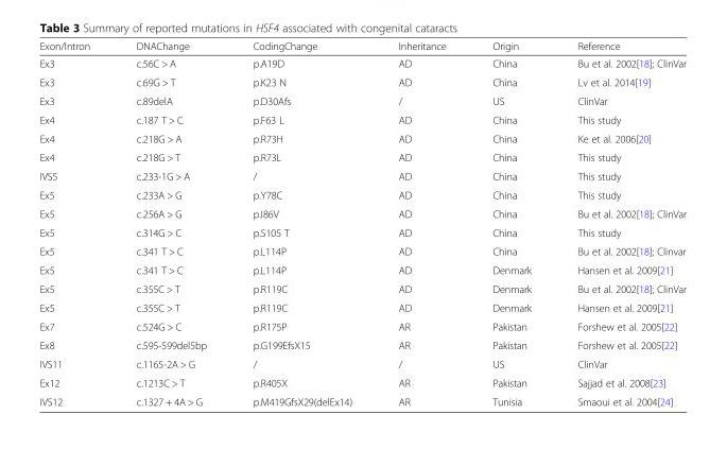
<table><thead><tr><td>Exon/Intron</td><td>DNAChange</td><td>CodingChange</td><td>Inheritance</td><td>Origin</td><td>Reference</td></tr></thead><tbody><tr><td>Ex3</td><td>c.56C &gt; A</td><td>p.A19D</td><td>AD</td><td>China</td><td>Bu et al. 2002[18]; ClinVar</td></tr><tr><td>Ex3</td><td>c.69G &gt; T</td><td>p.K23 N</td><td>AD</td><td>China</td><td>Lv et al. 2014[19]</td></tr><tr><td>Ex3</td><td>c.89delA</td><td>p.D30Afs</td><td>/</td><td>US</td><td>ClinVar</td></tr><tr><td>Ex4</td><td>c.187 T &gt; C</td><td>p.F63 L</td><td>AD</td><td>China</td><td>This study</td></tr><tr><td>Ex4</td><td>c.218G &gt; A</td><td>p.R73H</td><td>AD</td><td>China</td><td>Ke et al. 2006[20]</td></tr><tr><td>Ex4</td><td>c.218G &gt; T</td><td>p.R73L</td><td>AD</td><td>China</td><td>This study</td></tr><tr><td>IVS5</td><td>c.233-1G &gt; A</td><td>/</td><td>AD</td><td>China</td><td>This study</td></tr><tr><td>Ex5</td><td>c.233A &gt; G</td><td>p.Y78C</td><td>AD</td><td>China</td><td>This study</td></tr><tr><td>Ex5</td><td>c.256A &gt; G</td><td>p.I86V</td><td>AD</td><td>China</td><td>Bu et al. 2002[18]; ClinVar</td></tr><tr><td>Ex5</td><td>c.314G &gt; C</td><td>p.S105 T</td><td>AD</td><td>China</td><td>This study</td></tr><tr><td>Ex5</td><td>c.341 T &gt; C</td><td>p.L114P</td><td>AD</td><td>China</td><td>Bu et al. 2002[18]; Clinvar</td></tr><tr><td>Ex5</td><td>c.341 T &gt; C</td><td>p.L114P</td><td>AD</td><td>Denmark</td><td>Hansen et al. 2009[21]</td></tr><tr><td>Ex5</td><td>c.355C &gt; T</td><td>p.R119C</td><td>AD</td><td>Denmark</td><td>Bu et al. 2002[18]; ClinVar</td></tr><tr><td>Ex5</td><td>c.355C &gt; T</td><td>p.R119C</td><td>AD</td><td>Denmark</td><td>Hansen et al. 2009[21]</td></tr><tr><td>Ex7</td><td>c.524G &gt; C</td><td>p.R175P</td><td>AR</td><td>Pakistan</td><td>Forshew et al. 2005[22]</td></tr><tr><td>Ex8</td><td>c.595-599del5bp</td><td>p.G199EfsX15</td><td>AR</td><td>Pakistan</td><td>Forshew et al. 2005[22]</td></tr><tr><td>IVS11</td><td>c.1165-2A &gt; G</td><td>/</td><td>/</td><td>US</td><td>ClinVar</td></tr><tr><td>Ex12</td><td>c.1213C &gt; T</td><td>p.R405X</td><td>AR</td><td>Pakistan</td><td>Sajjad et al. 2008[23]</td></tr><tr><td>IVS12</td><td>c.1327 + 4A &gt; G</td><td>p.M419GfsX29(delEx14)</td><td>AR</td><td>Tunisia</td><td>Smaoui et al. 2004[24]</td></tr></tbody></table>